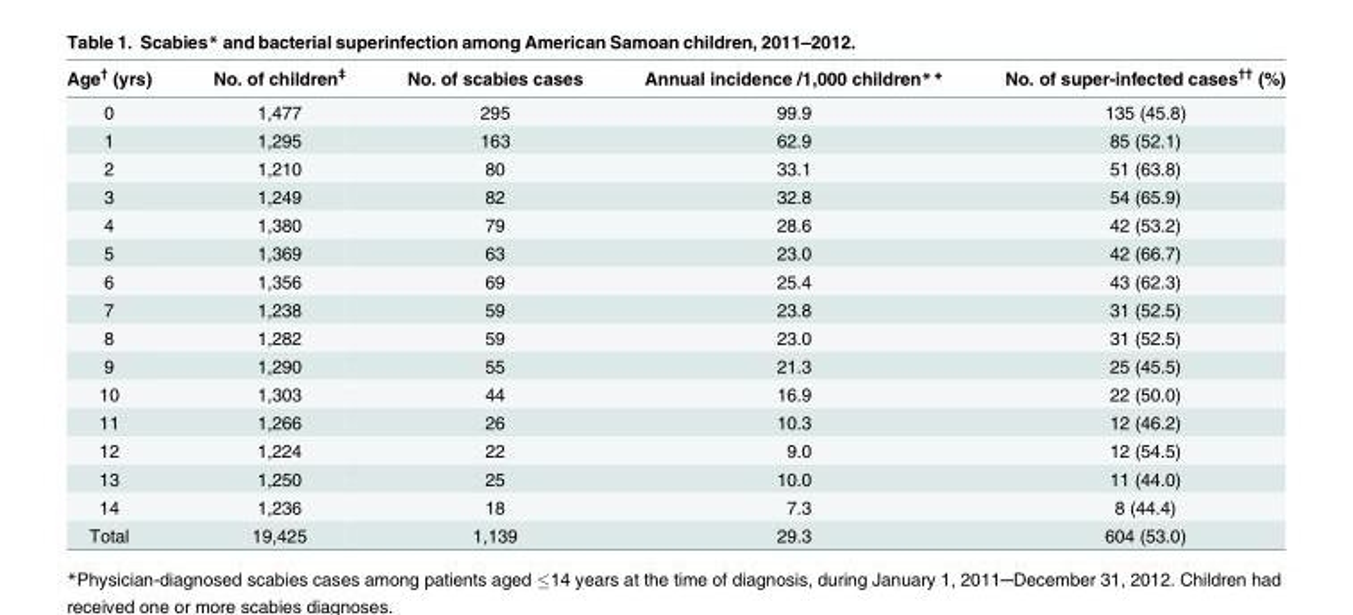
<table><thead><tr><td>Age<sup>†</sup> (yrs)</td><td>No. of children<sup>‡</sup></td><td>No. of scabies cases</td><td>Annual incidence /1,000 children**</td><td>No. of super-infected cases<sup>††</sup> (%)</td></tr></thead><tbody><tr><td>0</td><td>1,477</td><td>295</td><td>99.9</td><td>135 (45.8)</td></tr><tr><td>1</td><td>1,295</td><td>163</td><td>62.9</td><td>85 (52.1)</td></tr><tr><td>2</td><td>1,210</td><td>80</td><td>33.1</td><td>51 (63.8)</td></tr><tr><td>3</td><td>1,249</td><td>82</td><td>32.8</td><td>54 (65.9)</td></tr><tr><td>4</td><td>1,380</td><td>79</td><td>28.6</td><td>42 (53.2)</td></tr><tr><td>5</td><td>1,369</td><td>63</td><td>23.0</td><td>42 (66.7)</td></tr><tr><td>6</td><td>1,356</td><td>69</td><td>25.4</td><td>43 (62.3)</td></tr><tr><td>7</td><td>1,238</td><td>59</td><td>23.8</td><td>31 (52.5)</td></tr><tr><td>8</td><td>1,282</td><td>59</td><td>23.0</td><td>31 (52.5)</td></tr><tr><td>9</td><td>1,290</td><td>55</td><td>21.3</td><td>25 (45.5)</td></tr><tr><td>10</td><td>1,303</td><td>44</td><td>16.9</td><td>22 (50.0)</td></tr><tr><td>11</td><td>1,266</td><td>26</td><td>10.3</td><td>12 (46.2)</td></tr><tr><td>12</td><td>1,224</td><td>22</td><td>9.0</td><td>12 (54.5)</td></tr><tr><td>13</td><td>1,250</td><td>25</td><td>10.0</td><td>11 (44.0)</td></tr><tr><td>14</td><td>1,236</td><td>18</td><td>7.3</td><td>8 (44.4)</td></tr><tr><td>Total</td><td>19,425</td><td>1,139</td><td>29.3</td><td>604 (53.0)</td></tr></tbody></table>